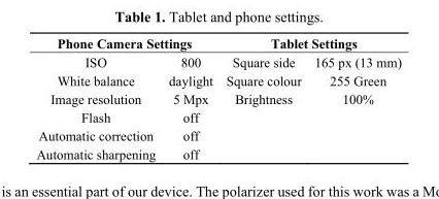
<table><thead><tr><td colspan="2">Phone Camera Settings</td><td colspan="2">Tablet Settings</td></tr><tr><td>ISO</td><td>800</td><td>Square side</td><td>165 px (13 mm)</td></tr></thead><tbody><tr><td>White balance</td><td>daylight</td><td>Square colour</td><td>255 Green</td></tr><tr><td>Image resolution</td><td>5 Mpx</td><td>Brightness</td><td>100%</td></tr><tr><td>Flash</td><td>off</td><td></td><td></td></tr><tr><td>Automatic correction</td><td>off</td><td></td><td></td></tr><tr><td>Automatic sharpening</td><td>off</td><td></td><td></td></tr></tbody></table>